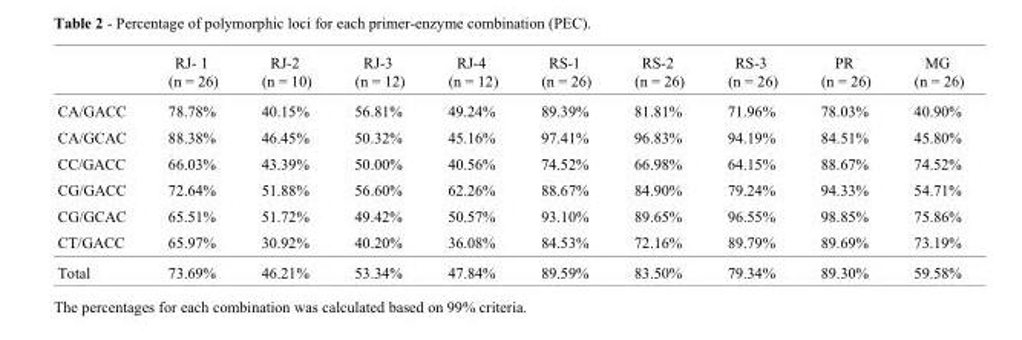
<table><thead><tr><td></td><td>RJ- 1 (n = 26)</td><td>RJ-2 (n = 10)</td><td>RJ-3 (n = 12)</td><td>RJ-4 (n = 12)</td><td>RS-1 (n = 26)</td><td>RS-2 (n = 26)</td><td>RS-3 (n = 26)</td><td>PR (n = 26)</td><td>MG (n = 26)</td></tr></thead><tbody><tr><td>CA/GACC</td><td>78.78%</td><td>40.15%</td><td>56.81%</td><td>49.24%</td><td>89.39%</td><td>81.81%</td><td>71.96%</td><td>78.03%</td><td>40.90%</td></tr><tr><td>CA/GCAC</td><td>88.38%</td><td>46.45%</td><td>50.32%</td><td>45.16%</td><td>97.41%</td><td>96.83%</td><td>94.19%</td><td>84.51%</td><td>45.80%</td></tr><tr><td>CC/GACC</td><td>66.03%</td><td>43.39%</td><td>50.00%</td><td>40.56%</td><td>74.52%</td><td>66.98%</td><td>64.15%</td><td>88.67%</td><td>74.52%</td></tr><tr><td>CG/GACC</td><td>72.64%</td><td>51.88%</td><td>56.60%</td><td>62.26%</td><td>88.67%</td><td>84.90%</td><td>79.24%</td><td>94.33%</td><td>54.71%</td></tr><tr><td>CG/GCAC</td><td>65.51%</td><td>51.72%</td><td>49.42%</td><td>50.57%</td><td>93.10%</td><td>89.65%</td><td>96.55%</td><td>98.85%</td><td>75.86%</td></tr><tr><td>CT/GACC</td><td>65.97%</td><td>30.92%</td><td>40.20%</td><td>36.08%</td><td>84.53%</td><td>72.16%</td><td>89.79%</td><td>89.69%</td><td>73.19%</td></tr><tr><td>Total</td><td>73.69%</td><td>46.21%</td><td>53.34%</td><td>47.84%</td><td>89.59%</td><td>83.50%</td><td>79.34%</td><td>89.30%</td><td>59.58%</td></tr></tbody></table>